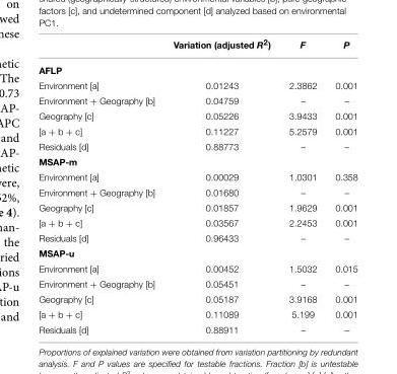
<table><thead><tr><td></td><td>Variation (adjusted R<sup>2</sup>)</td><td>F</td><td>P</td></tr></thead><tbody><tr><td colspan="4">AFLP</td></tr><tr><td>Environment [a]</td><td>0.01243</td><td>2.3862</td><td>0.001</td></tr><tr><td>Environment + Geography [b]</td><td>0.04759</td><td>–</td><td>–</td></tr><tr><td>Geography [c]</td><td>0.05226</td><td>3.9433</td><td>0.001</td></tr><tr><td>[a + b + c]</td><td>0.11227</td><td>5.2579</td><td>0.001</td></tr><tr><td>Residuals [d]</td><td>0.88773</td><td>–</td><td>–</td></tr><tr><td colspan="4">MSAP-m</td></tr><tr><td>Environment [a]</td><td>0.00029</td><td>1.0301</td><td>0.358</td></tr><tr><td>Environment + Geography [b]</td><td>0.01680</td><td>–</td><td>–</td></tr><tr><td>Geography [c]</td><td>0.01857</td><td>1.9629</td><td>0.001</td></tr><tr><td>[a + b + c]</td><td>0.03567</td><td>2.2453</td><td>0.001</td></tr><tr><td>Residuals [d]</td><td>0.96433</td><td>–</td><td>–</td></tr><tr><td colspan="4">MSAP-u</td></tr><tr><td>Environment [a]</td><td>0.00452</td><td>1.5032</td><td>0.015</td></tr><tr><td>Environment + Geography [b]</td><td>0.05451</td><td>–</td><td>–</td></tr><tr><td>Geography [c]</td><td>0.05187</td><td>3.9168</td><td>0.001</td></tr><tr><td>[a + b + c]</td><td>0.11089</td><td>5.199</td><td>0.001</td></tr><tr><td>Residuals [d]</td><td>0.88911</td><td>–</td><td>–</td></tr></tbody></table>